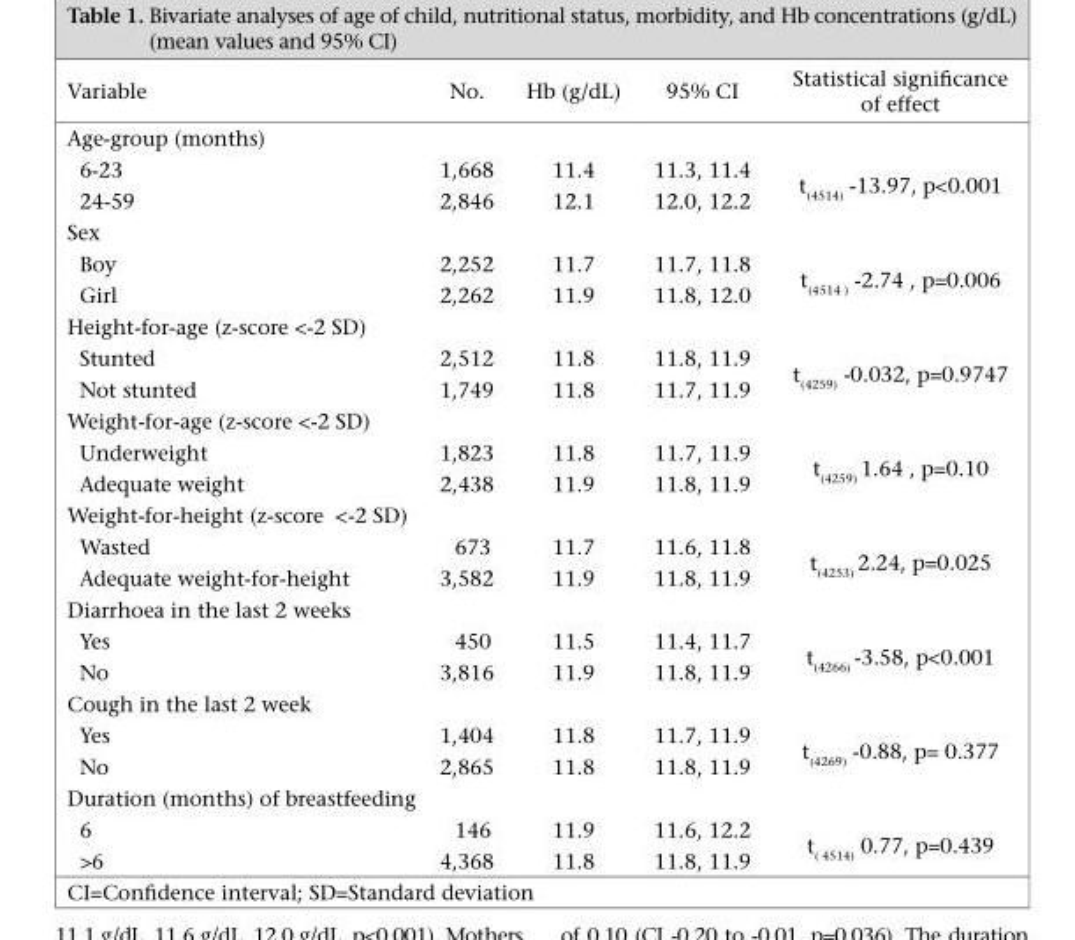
<table><thead><tr><td>Variable</td><td>No.</td><td>Hb (g/dL)</td><td>95% CI</td><td>Statistical significance of effect</td></tr></thead><tbody><tr><td colspan="5">Age-group (months)</td></tr><tr><td>6-23</td><td>1,668</td><td>11.4</td><td>11.3, 11.4</td><td rowspan="2">t<sub>(4514)</sub> -13.97, p&lt;0.001</td></tr><tr><td>24-59</td><td>2,846</td><td>12.1</td><td>12.0, 12.2</td></tr><tr><td colspan="5">Sex</td></tr><tr><td>Boy</td><td>2,252</td><td>11.7</td><td>11.7, 11.8</td><td rowspan="2">t<sub>(4514 )</sub> -2.74 , p=0.006</td></tr><tr><td>Girl</td><td>2,262</td><td>11.9</td><td>11.8, 12.0</td></tr><tr><td colspan="5">Height-for-age (z-score &lt;-2 SD)</td></tr><tr><td>Stunted</td><td>2,512</td><td>11.8</td><td>11.8, 11.9</td><td rowspan="2">t<sub>(4259)</sub> -0.032, p=0.9747</td></tr><tr><td>Not stunted</td><td>1,749</td><td>11.8</td><td>11.7, 11.9</td></tr><tr><td colspan="5">Weight-for-age (z-score &lt;-2 SD)</td></tr><tr><td>Underweight</td><td>1,823</td><td>11.8</td><td>11.7, 11.9</td><td rowspan="2">t<sub>(4259)</sub> 1.64 , p=0.10</td></tr><tr><td>Adequate weight</td><td>2,438</td><td>11.9</td><td>11.8, 11.9</td></tr><tr><td colspan="5">Weight-for-height (z-score &lt;-2 SD)</td></tr><tr><td>Wasted</td><td>673</td><td>11.7</td><td>11.6, 11.8</td><td rowspan="2">t<sub>(4253)</sub> 2.24, p=0.025</td></tr><tr><td>Adequate weight-for-height</td><td>3,582</td><td>11.9</td><td>11.8, 11.9</td></tr><tr><td colspan="5">Diarrhoea in the last 2 weeks</td></tr><tr><td>Yes</td><td>450</td><td>11.5</td><td>11.4, 11.7</td><td rowspan="2">t<sub>(4266)</sub> -3.58, p&lt;0.001</td></tr><tr><td>No</td><td>3,816</td><td>11.9</td><td>11.8, 11.9</td></tr><tr><td colspan="5">Cough in the last 2 week</td></tr><tr><td>Yes</td><td>1,404</td><td>11.8</td><td>11.7, 11.9</td><td rowspan="2">t<sub>(4269)</sub> -0.88, p= 0.377</td></tr><tr><td>No</td><td>2,865</td><td>11.8</td><td>11.8, 11.9</td></tr><tr><td colspan="5">Duration (months) of breastfeeding</td></tr><tr><td>6</td><td>146</td><td>11.9</td><td>11.6, 12.2</td><td rowspan="2">t<sub>( 4514)</sub> 0.77, p=0.439</td></tr><tr><td>&gt;6</td><td>4,368</td><td>11.8</td><td>11.8, 11.9</td></tr></tbody></table>